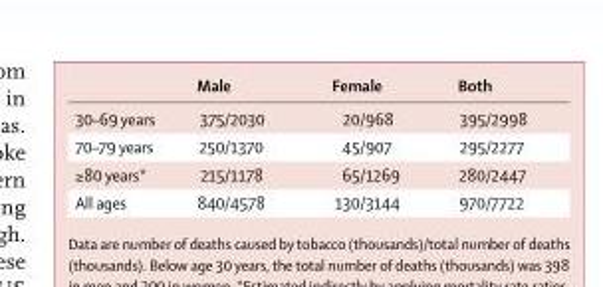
<table><thead><tr><td></td><td>Male</td><td>Female</td><td>Both</td></tr></thead><tbody><tr><td>30–69 years</td><td>375/2030</td><td>20/968</td><td>395/2998</td></tr><tr><td>70–79 years</td><td>250/1370</td><td>45/907</td><td>295/2277</td></tr><tr><td>≥80 years*</td><td>215/1178</td><td>65/1269</td><td>280/2447</td></tr><tr><td>All ages</td><td>840/4578</td><td>130/3144</td><td>970/7722</td></tr></tbody></table>